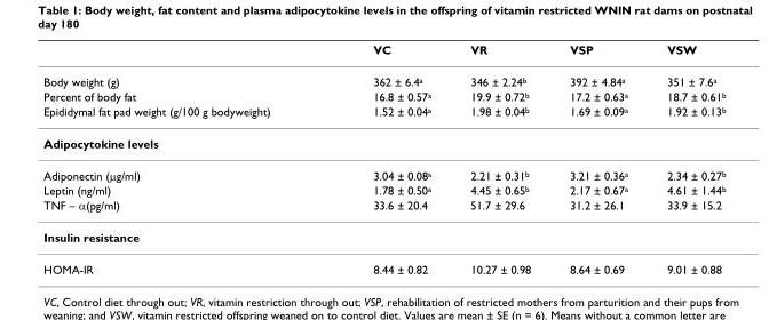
<table><thead><tr><td></td><td>VC</td><td>VR</td><td>VSP</td><td>VSW</td></tr></thead><tbody><tr><td>Body weight (g)</td><td>362 ± 6.4<sup>a</sup></td><td>346 ± 2.24<sup>b</sup></td><td>392 ± 4.84<sup>a</sup></td><td>351 ± 7.6<sup>a</sup></td></tr><tr><td>Percent of body fat</td><td>16.8 ± 0.57<sup>a</sup></td><td>19.9 ± 0.72<sup>b</sup></td><td>17.2 ± 0.63<sup>a</sup></td><td>18.7 ± 0.61<sup>b</sup></td></tr><tr><td>Epididymal fat pad weight (g/100 g bodyweight)</td><td>1.52 ± 0.04<sup>a</sup></td><td>1.98 ± 0.04<sup>b</sup></td><td>1.69 ± 0.09<sup>a</sup></td><td>1.92 ± 0.13<sup>b</sup></td></tr><tr><td colspan="5">Adipocytokine levels</td></tr><tr><td>Adiponectin (μg/ml)</td><td>3.04 ± 0.08<sup>a</sup></td><td>2.21 ± 0.31<sup>b</sup></td><td>3.21 ± 0.36<sup>a</sup></td><td>2.34 ± 0.27<sup>b</sup></td></tr><tr><td>Leptin (ng/ml)</td><td>1.78 ± 0.50<sup>a</sup></td><td>4.45 ± 0.65<sup>b</sup></td><td>2.17 ± 0.67<sup>a</sup></td><td>4.61 ± 1.44<sup>b</sup></td></tr><tr><td>TNF – α(pg/ml)</td><td>33.6 ± 20.4</td><td>51.7 ± 29.6</td><td>31.2 ± 26.1</td><td>33.9 ± 15.2</td></tr><tr><td colspan="5">Insulin resistance</td></tr><tr><td>HOMA-IR</td><td>8.44 ± 0.82</td><td>10.27 ± 0.98</td><td>8.64 ± 0.69</td><td>9.01 ± 0.88</td></tr></tbody></table>